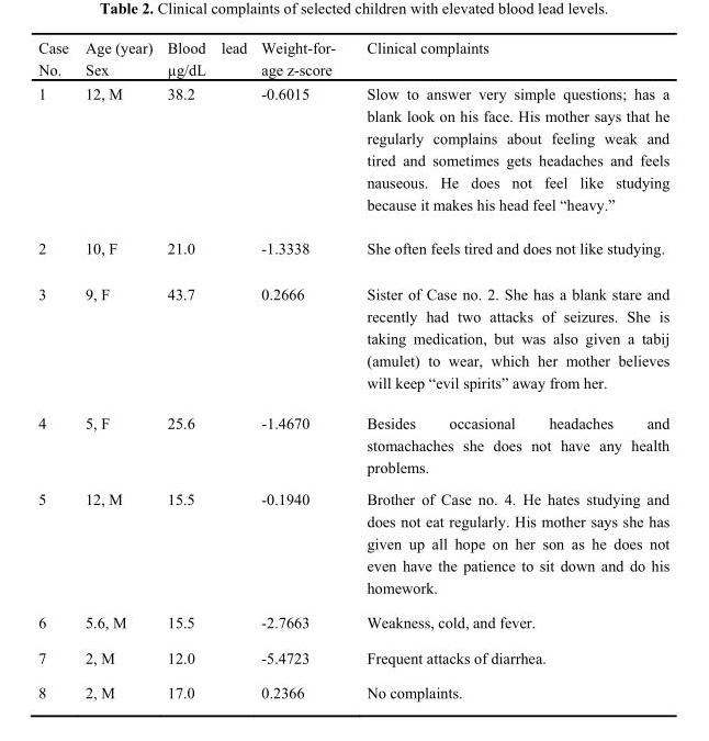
<table><thead><tr><td>Case No.</td><td>Age (year) Sex</td><td>Blood µg/dL</td><td>lead</td><td>Weight-for- age z-score</td><td>Clinical complaints</td></tr></thead><tbody><tr><td>1</td><td>12, M</td><td>38.2</td><td></td><td>-0.6015</td><td>Slow to answer very simple questions; has a blank look on his face. His mother says that he regularly complains about feeling weak and tired and sometimes gets headaches and feels nauseous. He does not feel like studying because it makes his head feel “heavy.”</td></tr><tr><td>2</td><td>10, F</td><td>21.0</td><td></td><td>-1.3338</td><td>She often feels tired and does not like studying.</td></tr><tr><td>3</td><td>9, F</td><td>43.7</td><td></td><td>0.2666</td><td>Sister of Case no. 2. She has a blank stare and recently had two attacks of seizures. She is taking medication, but was also given a tabij (amulet) to wear, which her mother believes will keep “evil spirits” away from her.</td></tr><tr><td>4</td><td>5, F</td><td>25.6</td><td></td><td>-1.4670</td><td>Besides occasional headaches and stomachaches she does not have any health problems.</td></tr><tr><td>5</td><td>12, M</td><td>15.5</td><td></td><td>-0.1940</td><td>Brother of Case no. 4. He hates studying and does not eat regularly. His mother says she has given up all hope on her son as he does not even have the patience to sit down and do his homework.</td></tr><tr><td>6</td><td>5.6, M</td><td>15.5</td><td></td><td>-2.7663</td><td>Weakness, cold, and fever.</td></tr><tr><td>7</td><td>2, M</td><td>12.0</td><td></td><td>-5.4723</td><td>Frequent attacks of diarrhea.</td></tr><tr><td>8</td><td>2, M</td><td>17.0</td><td></td><td>0.2366</td><td>No complaints.</td></tr></tbody></table>